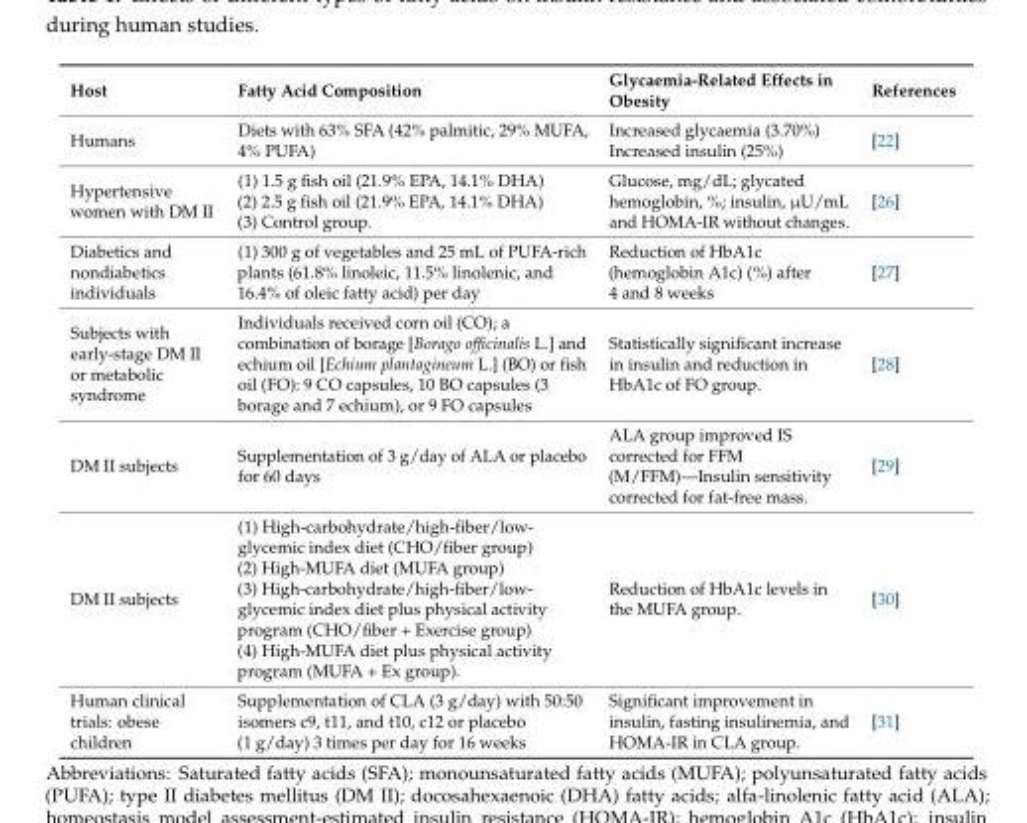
<table><thead><tr><td>Host</td><td>Fatty Acid Composition</td><td>Glycaemia-Related Effects in Obesity</td><td>References</td></tr></thead><tbody><tr><td>Humans</td><td>Diets with 63% SFA (42% palmitic, 29% MUFA, 4% PUFA)</td><td>Increased glycaemia (3.70%) Increased insulin (25%)</td><td>[22]</td></tr><tr><td>Hypertensive women with DM II</td><td>(1) 1.5 g fish oil (21.9% EPA, 14.1% DHA) (2) 2.5 g fish oil (21.9% EPA, 14.1% DHA) (3) Control group.</td><td>Glucose, mg/dL; glycated hemoglobin, %; insulin, µU/mL and HOMA-IR without changes.</td><td>[26]</td></tr><tr><td>Diabetics and nondiabetics individuals</td><td>(1) 300 g of vegetables and 25 mL of PUFA-rich plants (61.8% linoleic, 11.5% linolenic, and 16.4% of oleic fatty acid) per day</td><td>Reduction of HbA1c (hemoglobin A1c) (%) after 4 and 8 weeks</td><td>[27]</td></tr><tr><td>Subjects with early-stage DM II or metabolic syndrome</td><td>Individuals received corn oil (CO); a combination of borage [Borago officinalis L.] and echium oil [Echium plantagineum L.] (BO) or fish oil (FO): 9 CO capsules, 10 BO capsules (3 borage and 7 echium), or 9 FO capsules</td><td>Statistically significant increase in insulin and reduction in HbA1c of FO group.</td><td>[28]</td></tr><tr><td>DM II subjects</td><td>Supplementation of 3 g/day of ALA or placebo for 60 days</td><td>ALA group improved IS corrected for FFM (M/FFM)—Insulin sensitivity corrected for fat-free mass.</td><td>[29]</td></tr><tr><td>DM II subjects</td><td>(1) High-carbohydrate/high-fiber/low- glycemic index diet (CHO/fiber group) (2) High-MUFA diet (MUFA group) (3) High-carbohydrate/high-fiber/low- glycemic index diet plus physical activity program (CHO/fiber + Exercise group) (4) High-MUFA diet plus physical activity program (MUFA + Ex group).</td><td>Reduction of HbA1c levels in the MUFA group.</td><td>[30]</td></tr><tr><td>Human clinical trials: obese children</td><td>Supplementation of CLA (3 g/day) with 50:50 isomers c9, t11, and t10, c12 or placebo (1 g/day) 3 times per day for 16 weeks</td><td>Significant improvement in insulin, fasting insulinemia, and HOMA-IR in CLA group.</td><td>[31]</td></tr></tbody></table>